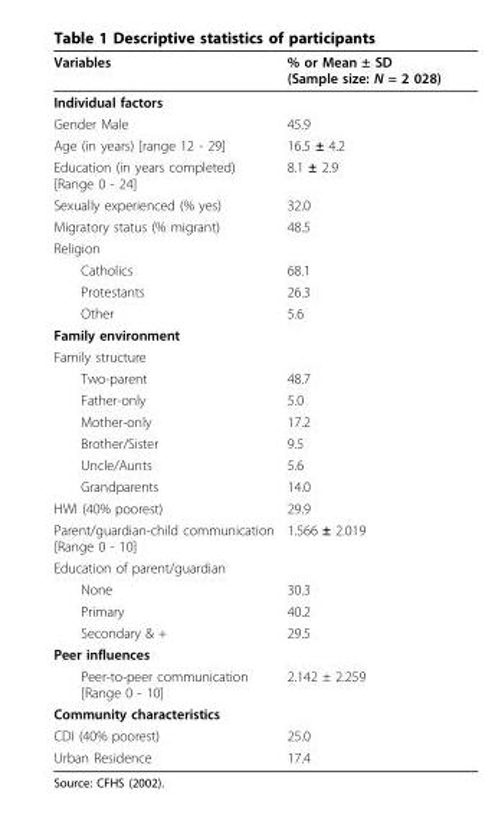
<table><thead><tr><td>Variables</td><td>% or Mean ± SD (Sample size: N = 2 028)</td></tr></thead><tbody><tr><td colspan="2">Individual factors</td></tr><tr><td>Gender Male</td><td>45.9</td></tr><tr><td>Age (in years) [range 12 - 29]</td><td>16.5 ± 4.2</td></tr><tr><td>Education (in years completed) [Range 0 - 24]</td><td>8.1 ± 2.9</td></tr><tr><td>Sexually experienced (% yes)</td><td>32.0</td></tr><tr><td>Migratory status (% migrant)</td><td>48.5</td></tr><tr><td colspan="2">Religion</td></tr><tr><td>Catholics</td><td>68.1</td></tr><tr><td>Protestants</td><td>26.3</td></tr><tr><td>Other</td><td>5.6</td></tr><tr><td colspan="2">Family environment</td></tr><tr><td colspan="2">Family structure</td></tr><tr><td>Two-parent</td><td>48.7</td></tr><tr><td>Father-only</td><td>5.0</td></tr><tr><td>Mother-only</td><td>17.2</td></tr><tr><td>Brother/Sister</td><td>9.5</td></tr><tr><td>Uncle/Aunts</td><td>5.6</td></tr><tr><td>Grandparents</td><td>14.0</td></tr><tr><td>HWI (40% poorest)</td><td>29.9</td></tr><tr><td>Parent/guardian-child communication [Range 0 - 10]</td><td>1.566 ± 2.019</td></tr><tr><td colspan="2">Education of parent/guardian</td></tr><tr><td>None</td><td>30.3</td></tr><tr><td>Primary</td><td>40.2</td></tr><tr><td>Secondary &amp; +</td><td>29.5</td></tr><tr><td colspan="2">Peer influences</td></tr><tr><td>Peer-to-peer communication [Range 0 - 10]</td><td>2.142 ± 2.259</td></tr><tr><td colspan="2">Community characteristics</td></tr><tr><td>CDI (40% poorest)</td><td>25.0</td></tr><tr><td>Urban Residence</td><td>17.4</td></tr></tbody></table>